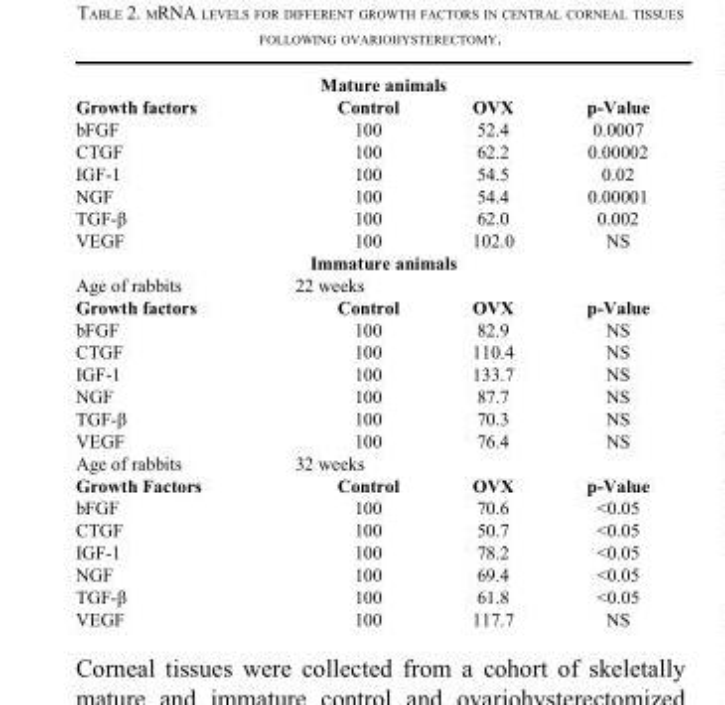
<table><thead><tr><td colspan="4">Mature animals</td></tr><tr><td>Growth factors</td><td>Control</td><td>OVX</td><td>p-Value</td></tr></thead><tbody><tr><td>bFGF</td><td>100</td><td>52.4</td><td>0.0007</td></tr><tr><td>CTGF</td><td>100</td><td>62.2</td><td>0.00002</td></tr><tr><td>IGF-1</td><td>100</td><td>54.5</td><td>0.02</td></tr><tr><td>NGF</td><td>100</td><td>54.4</td><td>0.00001</td></tr><tr><td>TGF-β</td><td>100</td><td>62.0</td><td>0.002</td></tr><tr><td>VEGF</td><td>100</td><td>102.0</td><td>NS</td></tr><tr><td colspan="4">Immature animals</td></tr><tr><td>Age of rabbits</td><td colspan="3">22 weeks</td></tr><tr><td>Growth factors</td><td>Control</td><td>OVX</td><td>p-Value</td></tr><tr><td>bFGF</td><td>100</td><td>82.9</td><td>NS</td></tr><tr><td>CTGF</td><td>100</td><td>110.4</td><td>NS</td></tr><tr><td>IGF-1</td><td>100</td><td>133.7</td><td>NS</td></tr><tr><td>NGF</td><td>100</td><td>87.7</td><td>NS</td></tr><tr><td>TGF-β</td><td>100</td><td>70.3</td><td>NS</td></tr><tr><td>VEGF</td><td>100</td><td>76.4</td><td>NS</td></tr><tr><td>Age of rabbits</td><td colspan="3">32 weeks</td></tr><tr><td>Growth Factors</td><td>Control</td><td>OVX</td><td>p-Value</td></tr><tr><td>bFGF</td><td>100</td><td>70.6</td><td>&lt;0.05</td></tr><tr><td>CTGF</td><td>100</td><td>50.7</td><td>&lt;0.05</td></tr><tr><td>IGF-1</td><td>100</td><td>78.2</td><td>&lt;0.05</td></tr><tr><td>NGF</td><td>100</td><td>69.4</td><td>&lt;0.05</td></tr><tr><td>TGF-β</td><td>100</td><td>61.8</td><td>&lt;0.05</td></tr><tr><td>VEGF</td><td>100</td><td>117.7</td><td>NS</td></tr></tbody></table>